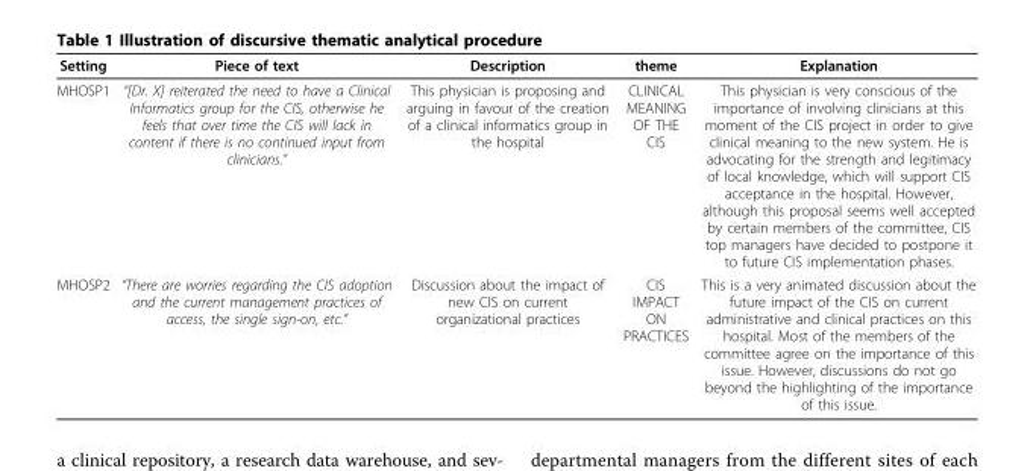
<table><thead><tr><td>Setting</td><td>Piece of text</td><td>Description</td><td>theme</td><td>Explanation</td></tr></thead><tbody><tr><td>MHOSP1</td><td>“[Dr. X] reiterated the need to have a Clinical Informatics group for the CIS, otherwise he feels that over time the CIS will lack in content if there is no continued input from clinicians.”</td><td>This physician is proposing and arguing in favour of the creation of a clinical informatics group in the hospital</td><td>CLINICAL MEANING OF THE CIS</td><td>This physician is very conscious of the importance of involving clinicians at this moment of the CIS project in order to give clinical meaning to the new system. He is advocating for the strength and legitimacy of local knowledge, which will support CIS acceptance in the hospital. However, although this proposal seems well accepted by certain members of the committee, CIS top managers have decided to postpone it to future CIS implementation phases.</td></tr><tr><td>MHOSP2</td><td>“There are worries regarding the CIS adoption and the current management practices of access, the single sign-on, etc.”</td><td>Discussion about the impact of new CIS on current organizational practices</td><td>CIS IMPACT ON PRACTICES</td><td>This is a very animated discussion about the future impact of the CIS on current administrative and clinical practices on this hospital. Most of the members of the committee agree on the importance of this issue. However, discussions do not go beyond the highlighting of the importance of this issue.</td></tr></tbody></table>